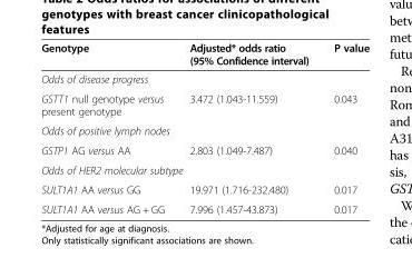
<table><thead><tr><td>Genotype</td><td>Adjusted* odds ratio (95% Confidence interval)</td><td>P value</td></tr></thead><tbody><tr><td colspan="3">Odds of disease progress</td></tr><tr><td>GSTT1 null genotype versus present genotype</td><td>3.472 (1.043-11.559)</td><td>0.043</td></tr><tr><td colspan="3">Odds of positive lymph nodes</td></tr><tr><td>GSTP1 AG versus AA</td><td>2.803 (1.049-7.487)</td><td>0.040</td></tr><tr><td colspan="3">Odds of HER2 molecular subtype</td></tr><tr><td>SULT1A1 AA versus GG</td><td>19.971 (1.716-232.480)</td><td>0.017</td></tr><tr><td>SULT1A1 AA versus AG + GG</td><td>7.996 (1.457-43.873)</td><td>0.017</td></tr></tbody></table>